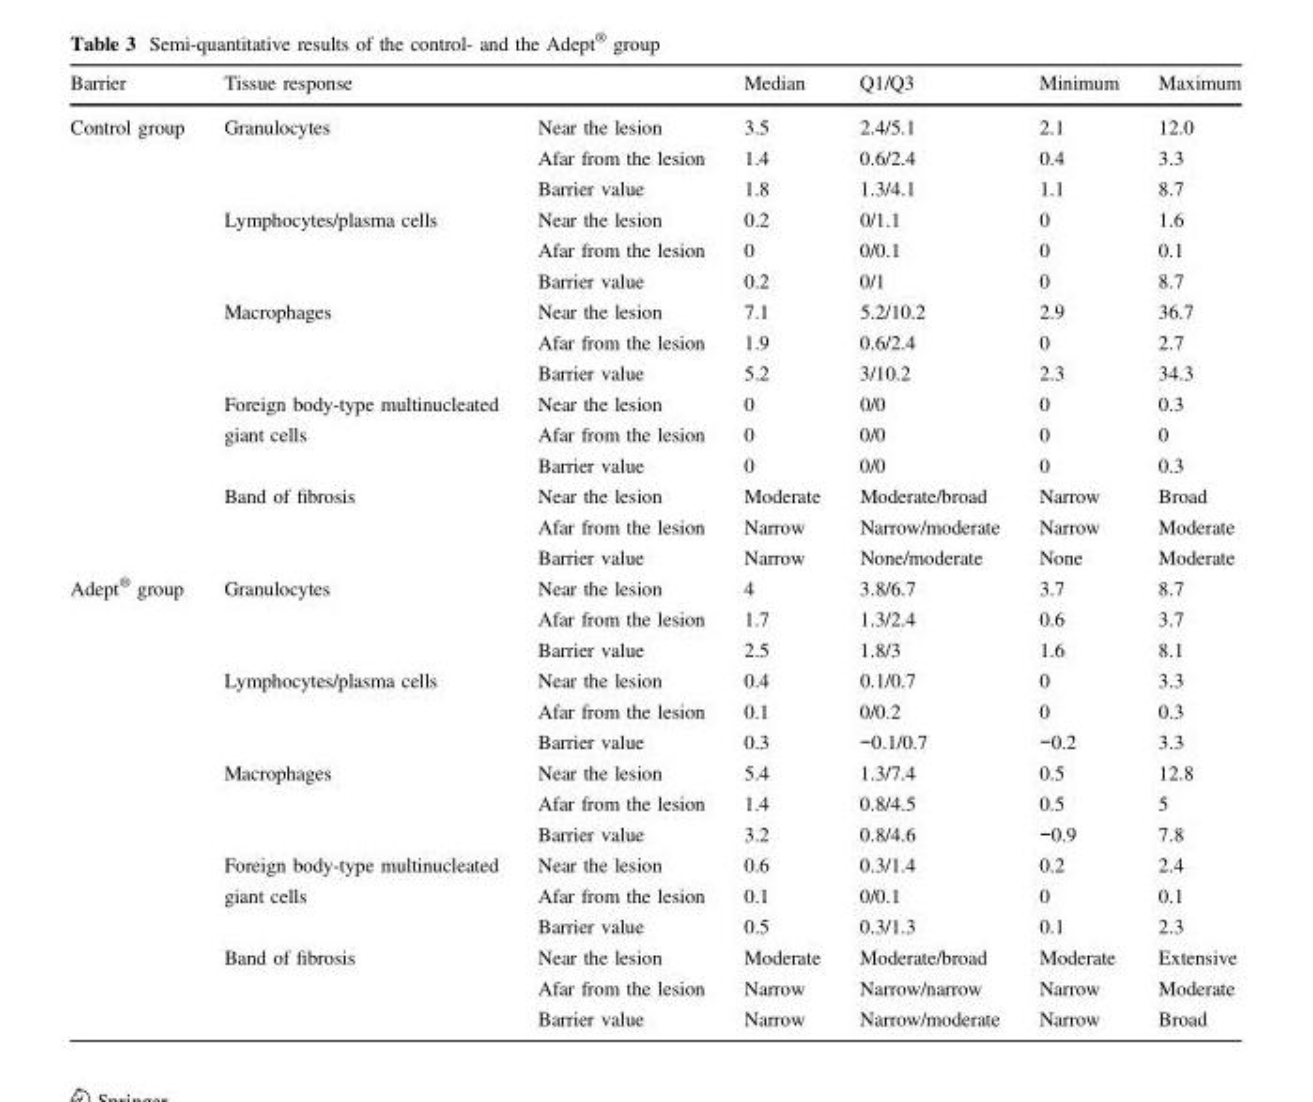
<table><thead><tr><td rowspan="2">Barrier Control group</td><td colspan="2">Tissue response</td><td rowspan="2">Median 3.5</td><td rowspan="2">Q1/Q3 2.4/5.1</td><td rowspan="2">Minimum 2.1</td><td rowspan="2">Maximum 12.0</td></tr><tr><td>Granulocytes</td><td>Near the lesion</td></tr></thead><tbody><tr><td></td><td></td><td>Afar from the lesion</td><td>1.4</td><td>0.6/2.4</td><td>0.4</td><td>3.3</td></tr><tr><td></td><td></td><td>Barrier value</td><td>1.8</td><td>1.3/4.1</td><td>1.1</td><td>8.7</td></tr><tr><td></td><td>Lymphocytes/plasma cells</td><td>Near the lesion</td><td>0.2</td><td>0/1.1</td><td>0</td><td>1.6</td></tr><tr><td></td><td></td><td>Afar from the lesion</td><td>0</td><td>0/0.1</td><td>0</td><td>0.1</td></tr><tr><td></td><td></td><td>Barrier value</td><td>0.2</td><td>0/1</td><td>0</td><td>8.7</td></tr><tr><td></td><td>Macrophages</td><td>Near the lesion</td><td>7.1</td><td>5.2/10.2</td><td>2.9</td><td>36.7</td></tr><tr><td></td><td></td><td>Afar from the lesion</td><td>1.9</td><td>0.6/2.4</td><td>0</td><td>2.7</td></tr><tr><td></td><td></td><td>Barrier value</td><td>5.2</td><td>3/10.2</td><td>2.3</td><td>34.3</td></tr><tr><td></td><td>Foreign body-type multinucleated</td><td>Near the lesion</td><td>0</td><td>0/0</td><td>0</td><td>0.3</td></tr><tr><td></td><td>giant cells</td><td>Afar from the lesion</td><td>0</td><td>0/0</td><td>0</td><td>0</td></tr><tr><td></td><td></td><td>Barrier value</td><td>0</td><td>0/0</td><td>0</td><td>0.3</td></tr><tr><td></td><td>Band of fibrosis</td><td>Near the lesion</td><td>Moderate</td><td>Moderate/broad</td><td>Narrow</td><td>Broad</td></tr><tr><td></td><td></td><td>Afar from the lesion</td><td>Narrow</td><td>Narrow/moderate</td><td>Narrow</td><td>Moderate</td></tr><tr><td></td><td></td><td>Barrier value</td><td>Narrow</td><td>None/moderate</td><td>None</td><td>Moderate</td></tr><tr><td rowspan="15">Adept<sup>®</sup> group</td><td>Granulocytes</td><td>Near the lesion</td><td>4</td><td>3.8/6.7</td><td>3.7</td><td>8.7</td></tr><tr><td></td><td>Afar from the lesion</td><td>1.7</td><td>1.3/2.4</td><td>0.6</td><td>3.7</td></tr><tr><td></td><td>Barrier value</td><td>2.5</td><td>1.8/3</td><td>1.6</td><td>8.1</td></tr><tr><td>Lymphocytes/plasma cells</td><td>Near the lesion</td><td>0.4</td><td>0.1/0.7</td><td>0</td><td>3.3</td></tr><tr><td></td><td>Afar from the lesion</td><td>0.1</td><td>0/0.2</td><td>0</td><td>0.3</td></tr><tr><td></td><td>Barrier value</td><td>0.3</td><td>−0.1/0.7</td><td>−0.2</td><td>3.3</td></tr><tr><td>Macrophages</td><td>Near the lesion</td><td>5.4</td><td>1.3/7.4</td><td>0.5</td><td>12.8</td></tr><tr><td></td><td>Afar from the lesion</td><td>1.4</td><td>0.8/4.5</td><td>0.5</td><td>5</td></tr><tr><td></td><td>Barrier value</td><td>3.2</td><td>0.8/4.6</td><td>−0.9</td><td>7.8</td></tr><tr><td>Foreign body-type multinucleated</td><td>Near the lesion</td><td>0.6</td><td>0.3/1.4</td><td>0.2</td><td>2.4</td></tr><tr><td>giant cells</td><td>Afar from the lesion</td><td>0.1</td><td>0/0.1</td><td>0</td><td>0.1</td></tr><tr><td></td><td>Barrier value</td><td>0.5</td><td>0.3/1.3</td><td>0.1</td><td>2.3</td></tr><tr><td>Band of fibrosis</td><td>Near the lesion</td><td>Moderate</td><td>Moderate/broad</td><td>Moderate</td><td>Extensive</td></tr><tr><td></td><td>Afar from the lesion</td><td>Narrow</td><td>Narrow/narrow</td><td>Narrow</td><td>Moderate</td></tr><tr><td></td><td>Barrier value</td><td>Narrow</td><td>Narrow/moderate</td><td>Narrow</td><td>Broad</td></tr></tbody></table>